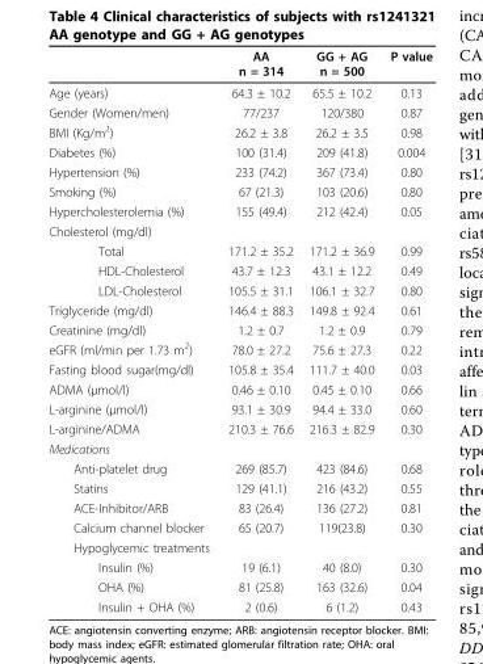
<table><thead><tr><td></td><td>AA n = 314</td><td>GG + AG n = 500</td><td>P value</td></tr></thead><tbody><tr><td>Age (years)</td><td>64.3 ± 10.2</td><td>65.5 ± 10.2</td><td>0.13</td></tr><tr><td>Gender (Women/men)</td><td>77/237</td><td>120/380</td><td>0.87</td></tr><tr><td>BMI (Kg/m<sup>2</sup>)</td><td>26.2 ± 3.8</td><td>26.2 ± 3.5</td><td>0.98</td></tr><tr><td>Diabetes (%)</td><td>100 (31.4)</td><td>209 (41.8)</td><td>0.004</td></tr><tr><td>Hypertension (%)</td><td>233 (74.2)</td><td>367 (73.4)</td><td>0.80</td></tr><tr><td>Smoking (%)</td><td>67 (21.3)</td><td>103 (20.6)</td><td>0.80</td></tr><tr><td>Hypercholesterolemia (%)</td><td>155 (49.4)</td><td>212 (42.4)</td><td>0.05</td></tr><tr><td colspan="4">Cholesterol (mg/dl)</td></tr><tr><td>Total</td><td>171.2 ± 35.2</td><td>171.2 ± 36.9</td><td>0.99</td></tr><tr><td>HDL-Cholesterol</td><td>43.7 ± 12.3</td><td>43.1 ± 12.2</td><td>0.49</td></tr><tr><td>LDL-Cholesterol</td><td>105.5 ± 31.1</td><td>106.1 ± 32.7</td><td>0.80</td></tr><tr><td>Triglyceride (mg/dl)</td><td>146.4 ± 88.3</td><td>149.8 ± 92.4</td><td>0.61</td></tr><tr><td>Creatinine (mg/dl)</td><td>1.2 ± 0.7</td><td>1.2 ± 0.9</td><td>0.79</td></tr><tr><td>eGFR (ml/min per 1.73 m<sup>2</sup>)</td><td>78.0 ± 27.2</td><td>75.6 ± 27.3</td><td>0.22</td></tr><tr><td>Fasting blood sugar(mg/dl)</td><td>105.8 ± 35.4</td><td>111.7 ± 40.0</td><td>0.03</td></tr><tr><td>ADMA (μmol/l)</td><td>0.46 ± 0.10</td><td>0.45 ± 0.10</td><td>0.66</td></tr><tr><td>L-arginine (μmol/l)</td><td>93.1 ± 30.9</td><td>94.4 ± 33.0</td><td>0.60</td></tr><tr><td>L-arginine/ADMA</td><td>210.3 ± 76.6</td><td>216.3 ± 82.9</td><td>0.30</td></tr><tr><td colspan="4">Medications</td></tr><tr><td>Anti-platelet drug</td><td>269 (85.7)</td><td>423 (84.6)</td><td>0.68</td></tr><tr><td>Statins</td><td>129 (41.1)</td><td>216 (43.2)</td><td>0.55</td></tr><tr><td>ACE-Inhibitor/ARB</td><td>83 (26.4)</td><td>136 (27.2)</td><td>0.81</td></tr><tr><td>Calcium channel blocker</td><td>65 (20.7)</td><td>119(23.8)</td><td>0.30</td></tr><tr><td colspan="4">Hypoglycemic treatments</td></tr><tr><td>Insulin (%)</td><td>19 (6.1)</td><td>40 (8.0)</td><td>0.30</td></tr><tr><td>OHA (%)</td><td>81 (25.8)</td><td>163 (32.6)</td><td>0.04</td></tr><tr><td>Insulin + OHA (%)</td><td>2 (0.6)</td><td>6 (1.2)</td><td>0.43</td></tr></tbody></table>